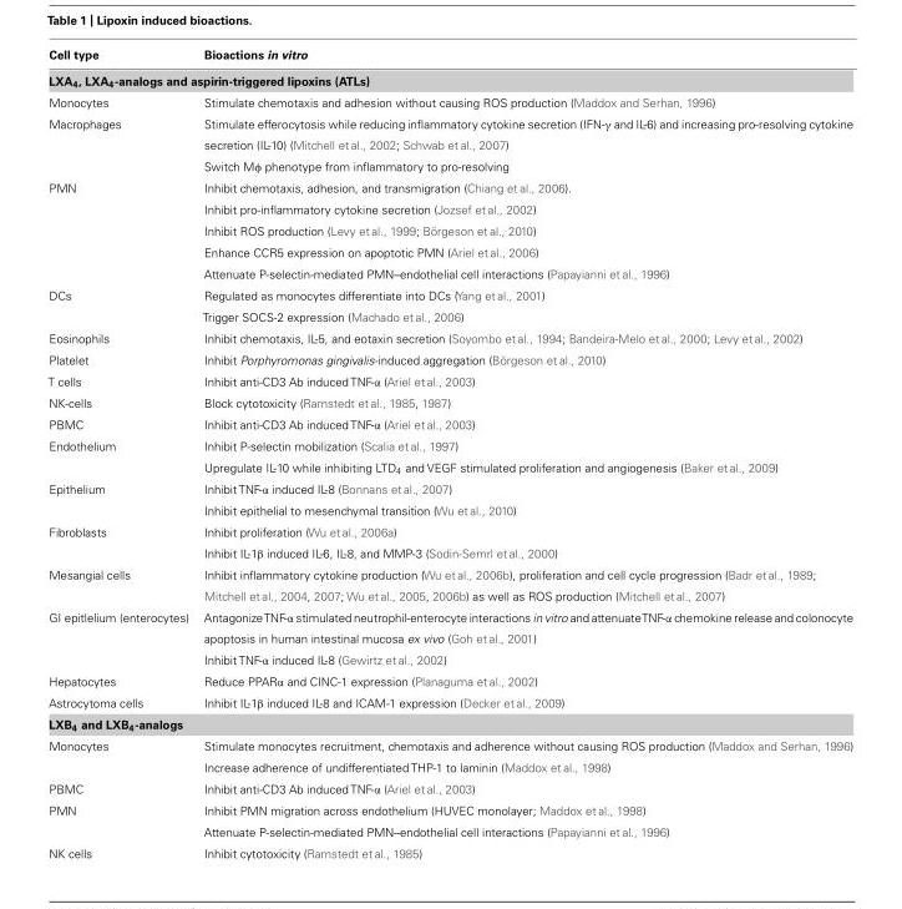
<table><thead><tr><td>Cell type</td><td>Bioactions in vitro</td></tr><tr><td colspan="2">LXA<sub>4</sub>, LXA<sub>4</sub>-analogs and aspirin-triggered lipoxins (ATLs)</td></tr></thead><tbody><tr><td>Monocytes</td><td>Stimulate chemotaxis and adhesion without causing ROS production (Maddox and Serhan, 1996)</td></tr><tr><td rowspan="2">Macrophages</td><td>Stimulate efferocytosis while reducing inflammatory cytokine secretion (IFN-γ and IL-6) and increasing pro-resolving cytokine secretion (IL-10) (Mitchell et al., 2002; Schwab et al., 2007)</td></tr><tr><td>Switch Mφ phenotype from inflammatory to pro-resolving</td></tr><tr><td rowspan="5">PMN</td><td>Inhibit chemotaxis, adhesion, and transmigration (Chiang et al., 2006).</td></tr><tr><td>Inhibit pro-inflammatory cytokine secretion (Jozsef et al., 2002)</td></tr><tr><td>Inhibit ROS production (Levy et al., 1999; Börgeson et al., 2010)</td></tr><tr><td>Enhance CCR5 expression on apoptotic PMN (Ariel et al., 2006)</td></tr><tr><td>Attenuate P-selectin-mediated PMN–endothelial cell interactions (Papayianni et al., 1996)</td></tr><tr><td rowspan="2">DCs</td><td>Regulated as monocytes differentiate into DCs (Yang et al., 2001)</td></tr><tr><td>Trigger SOCS-2 expression (Machado et al., 2006)</td></tr><tr><td>Eosinophils</td><td>Inhibit chemotaxis, IL-5, and eotaxin secretion (Soyombo et al., 1994; Bandeira-Melo et al., 2000; Levy et al., 2002)</td></tr><tr><td>Platelet</td><td>Inhibit Porphyromonas gingivalis-induced aggregation (Börgeson et al., 2010)</td></tr><tr><td>T cells</td><td>Inhibit anti-CD3 Ab induced TNF-α (Ariel et al., 2003)</td></tr><tr><td>NK-cells</td><td>Block cytotoxicity (Ramstedt et al., 1985, 1987)</td></tr><tr><td>PBMC</td><td>Inhibit anti-CD3 Ab induced TNF-α (Ariel et al., 2003)</td></tr><tr><td rowspan="2">Endothelium</td><td>Inhibit P-selectin mobilization (Scalia et al., 1997)</td></tr><tr><td>Upregulate IL-10 while inhibiting LTD<sub>4</sub> and VEGF stimulated proliferation and angiogenesis (Baker et al., 2009)</td></tr><tr><td rowspan="2">Epithelium</td><td>Inhibit TNF-α induced IL-8 (Bonnans et al., 2007)</td></tr><tr><td>Inhibit epithelial to mesenchymal transition (Wu et al., 2010)</td></tr><tr><td rowspan="2">Fibroblasts</td><td>Inhibit proliferation (Wu et al., 2006a)</td></tr><tr><td>Inhibit IL-1β induced IL-6, IL-8, and MMP-3 (Sodin-Semrl et al., 2000)</td></tr><tr><td>Mesangial cells</td><td>Inhibit inflammatory cytokine production (Wu et al., 2006b), proliferation and cell cycle progression (Badr et al., 1989; Mitchell et al., 2004, 2007; Wu et al., 2005, 2006b) as well as ROS production (Mitchell et al., 2007)</td></tr><tr><td rowspan="2">GI epitlelium (enterocytes)</td><td>AntagonizeTNF-α stimulated neutrophil-enterocyte interactions in vitro and attenuateTNF-α chemokine release and colonocyte apoptosis in human intestinal mucosa ex vivo (Goh et al., 2001)</td></tr><tr><td>Inhibit TNF-α induced IL-8 (Gewirtz et al., 2002)</td></tr><tr><td>Hepatocytes</td><td>Reduce PPARα and CINC-1 expression (Planaguma et al., 2002)</td></tr><tr><td>Astrocytoma cells</td><td>Inhibit IL-1β induced IL-8 and ICAM-1 expression (Decker et al., 2009)</td></tr><tr><td colspan="2">LXB<sub>4</sub> and LXB<sub>4</sub>-analogs</td></tr><tr><td rowspan="2">Monocytes</td><td>Stimulate monocytes recruitment, chemotaxis and adherence without causing ROS production (Maddox and Serhan, 1996)</td></tr><tr><td>Increase adherence of undifferentiated THP-1 to laminin (Maddox et al., 1998)</td></tr><tr><td>PBMC</td><td>Inhibit anti-CD3 Ab induced TNF-α (Ariel et al., 2003)</td></tr><tr><td rowspan="2">PMN</td><td>Inhibit PMN migration across endothelium (HUVEC monolayer; Maddox et al., 1998)</td></tr><tr><td>Attenuate P-selectin-mediated PMN–endothelial cell interactions (Papayianni et al., 1996)</td></tr><tr><td>NK cells</td><td>Inhibit cytotoxicity (Ramstedt et al., 1985)</td></tr></tbody></table>